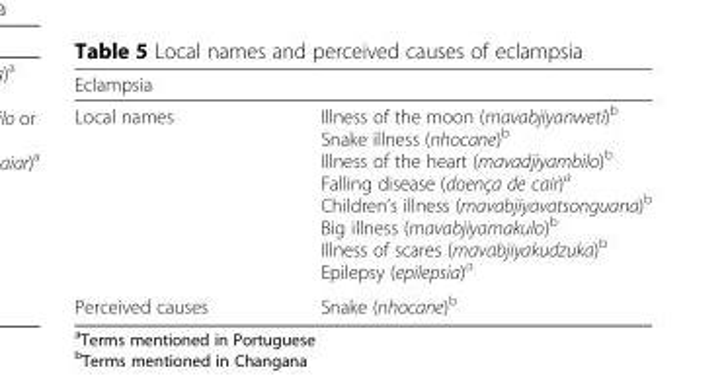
<table><thead><tr><td colspan="2">Eclampsia</td></tr><tr><td>Local names</td><td>Illness of the moon (mavabjiyanweti)<sup>b</sup> Snake illness (nhocane)<sup>b</sup> Illness of the heart (mavadjiyambilo)<sup>b</sup> Falling disease (doença de cair)<sup>a</sup> Children’s illness (mavabjiyavatsonguana)<sup>b</sup> Big illness (mavabjiyamakulo)<sup>b</sup> Illness of scares (mavabjiyakudzuka)<sup>b</sup> Epilepsy (epilepsia)<sup>a</sup></td></tr></thead><tbody><tr><td>Perceived causes</td><td>Snake (nhocane)<sup>b</sup></td></tr></tbody></table>